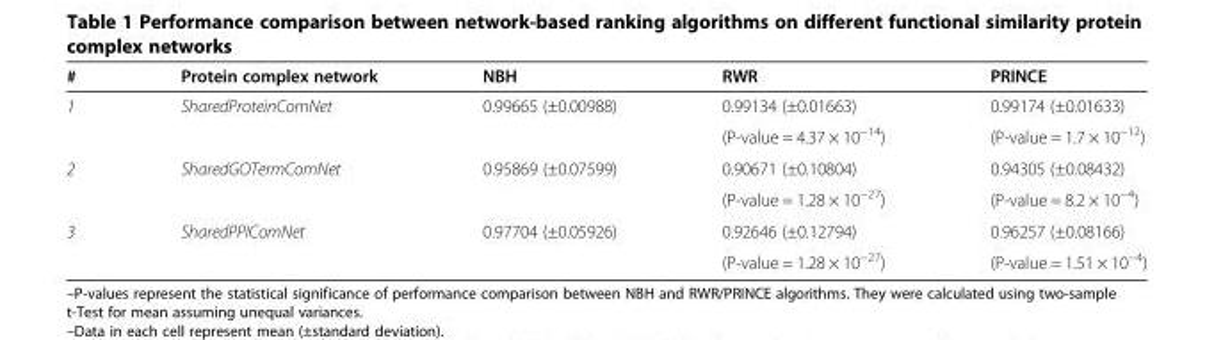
<table><thead><tr><td>#</td><td>Protein complex network</td><td>NBH</td><td>RWR</td><td>PRINCE</td></tr></thead><tbody><tr><td rowspan="2">1</td><td rowspan="2">SharedProteinComNet</td><td rowspan="2">0.99665 (±0.00988)</td><td>0.99134 (±0.01663)</td><td>0.99174 (±0.01633)</td></tr><tr><td>(P-value = 4.37 × 10<sup>−14</sup>)</td><td>(P-value = 1.7 × 10<sup>−12</sup>)</td></tr><tr><td rowspan="2">2</td><td rowspan="2">SharedGOTermComNet</td><td rowspan="2">0.95869 (±0.07599)</td><td>0.90671 (±0.10804)</td><td>0.94305 (±0.08432)</td></tr><tr><td>(P-value = 1.28 × 10<sup>−27</sup>)</td><td>(P-value = 8.2 × 10<sup>−4</sup>)</td></tr><tr><td rowspan="2">3</td><td rowspan="2">SharedPPIComNet</td><td rowspan="2">0.97704 (±0.05926)</td><td>0.92646 (±0.12794)</td><td>0.96257 (±0.08166)</td></tr><tr><td>(P-value = 1.28 × 10<sup>−27</sup>)</td><td>(P-value = 1.51 × 10<sup>−4</sup>)</td></tr></tbody></table>